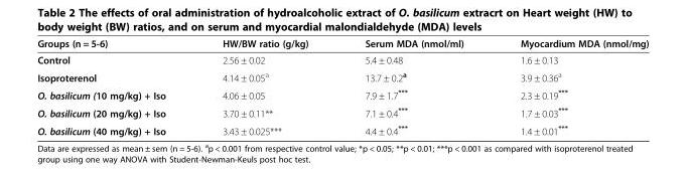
<table><thead><tr><td>Groups (n = 5-6)</td><td>HW/BW ratio (g/kg)</td><td>Serum MDA (nmol/ml)</td><td>Myocardium MDA (nmol/mg)</td></tr></thead><tbody><tr><td>Control</td><td>2.56 ± 0.02</td><td>5.4 ± 0.48</td><td>1.6 ± 0.13</td></tr><tr><td>Isoproterenol</td><td>4.14 ± 0.05<sup>a</sup></td><td>13.7 ± 0.2<sup>a</sup></td><td>3.9 ± 0.36<sup>a</sup></td></tr><tr><td>O. basilicum (10 mg/kg) + Iso</td><td>4.06 ± 0.05</td><td>7.9 ± 1.7***</td><td>2.3 ± 0.19***</td></tr><tr><td>O. basilicum (20 mg/kg) + Iso</td><td>3.70 ± 0.11**</td><td>7.1 ± 0.4***</td><td>1.7 ± 0.03***</td></tr><tr><td>O. basilicum (40 mg/kg) + Iso</td><td>3.43 ± 0.025***</td><td>4.4 ± 0.4***</td><td>1.4 ± 0.01***</td></tr></tbody></table>